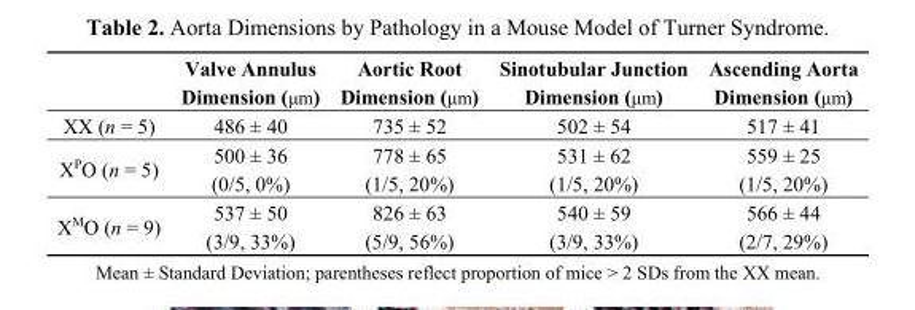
<table><thead><tr><td></td><td>Valve Annulus Dimension (μm)</td><td>Aortic Root Dimension (μm)</td><td>Sinotubular Junction Dimension (μm)</td><td>Ascending Aorta Dimension (μm)</td></tr></thead><tbody><tr><td>XX (n = 5)</td><td>486 ± 40</td><td>735 ± 52</td><td>502 ± 54</td><td>517 ± 41</td></tr><tr><td rowspan="2">X<sup>P</sup>O (n = 5)</td><td>500 ± 36</td><td>778 ± 65</td><td>531 ± 62</td><td>559 ± 25</td></tr><tr><td>(0/5, 0%)</td><td>(1/5, 20%)</td><td>(1/5, 20%)</td><td>(1/5, 20%)</td></tr><tr><td rowspan="2">X<sup>M</sup>O (n = 9)</td><td>537 ± 50</td><td>826 ± 63</td><td>540 ± 59</td><td>566 ± 44</td></tr><tr><td>(3/9, 33%)</td><td>(5/9, 56%)</td><td>(3/9, 33%)</td><td>(2/7, 29%)</td></tr></tbody></table>